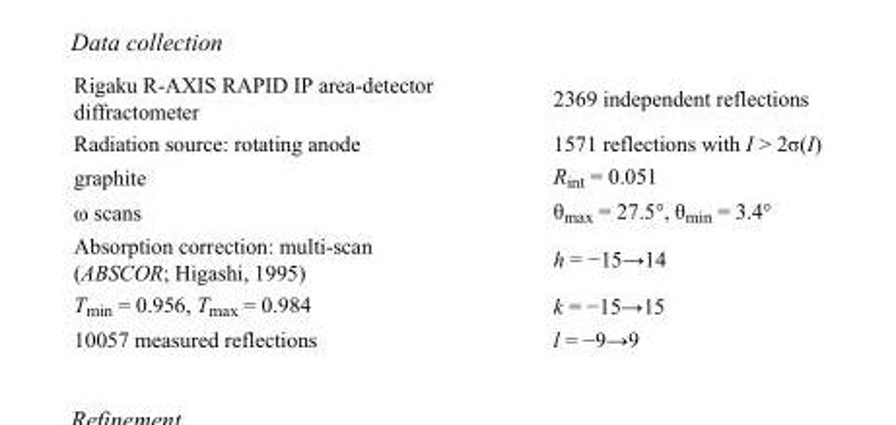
<table><tbody><tr><td>Rigaku R-AXIS RAPID IP area-detector diffractometer</td><td>2369 independent reflections</td></tr><tr><td>Radiation source: rotating anode</td><td>1571 reflections with I &gt; 2σ(I)</td></tr><tr><td>graphite</td><td>R<sub>int</sub> = 0.051</td></tr><tr><td>ω scans</td><td>θ<sub>max</sub> = 27.5°, θ<sub>min</sub> = 3.4°</td></tr><tr><td>Absorption correction: multi-scan (ABSCOR; Higashi, 1995)</td><td>h = −15→14</td></tr><tr><td>T<sub>min</sub> = 0.956, T<sub>max</sub> = 0.984</td><td>k = −15→15</td></tr><tr><td>10057 measured reflections</td><td>l = −9→9</td></tr></tbody></table>